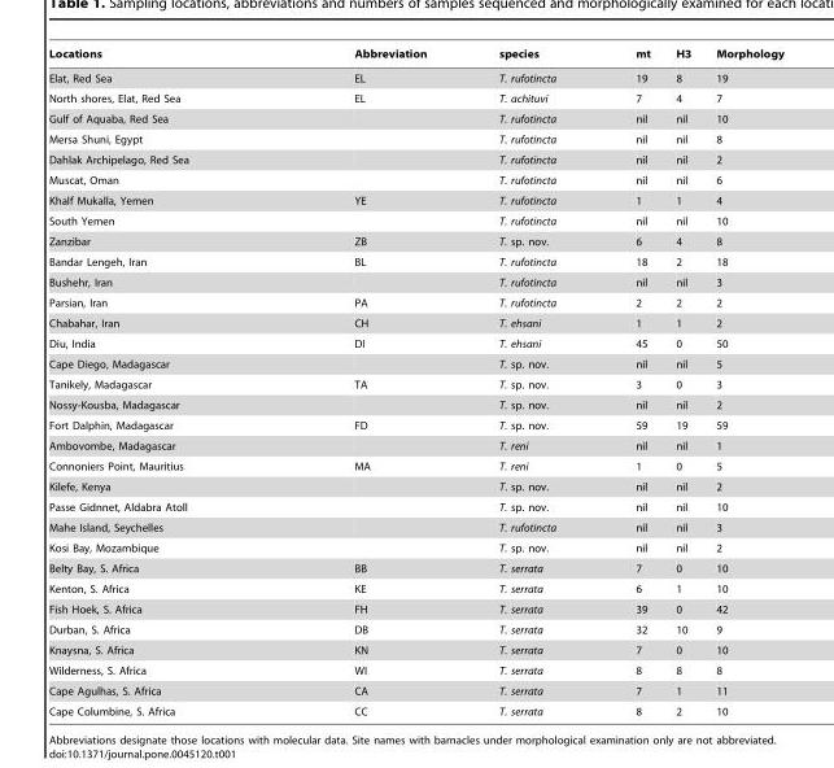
<table><thead><tr><td>Locations</td><td>Abbreviation</td><td>species</td><td>mt</td><td>H3</td><td>Morphology</td></tr></thead><tbody><tr><td>Elat, Red Sea</td><td>EL</td><td>T. rufotincta</td><td>19</td><td>8</td><td>19</td></tr><tr><td>North shores, Elat, Red Sea</td><td>EL</td><td>T. achituvi</td><td>7</td><td>4</td><td>7</td></tr><tr><td>Gulf of Aquaba, Red Sea</td><td></td><td>T. rufotincta</td><td>nil</td><td>nil</td><td>10</td></tr><tr><td>Mersa Shuni, Egypt</td><td></td><td>T. rufotincta</td><td>nil</td><td>nil</td><td>8</td></tr><tr><td>Dahlak Archipelago, Red Sea</td><td></td><td>T. rufotincta</td><td>nil</td><td>nil</td><td>2</td></tr><tr><td>Muscat, Oman</td><td></td><td>T. rufotincta</td><td>nil</td><td>nil</td><td>6</td></tr><tr><td>Khalf Mukalla, Yemen</td><td>YE</td><td>T. rufotincta</td><td>1</td><td>1</td><td>4</td></tr><tr><td>South Yemen</td><td></td><td>T. rufotincta</td><td>nil</td><td>nil</td><td>10</td></tr><tr><td>Zanzibar</td><td>ZB</td><td>T. sp. nov.</td><td>6</td><td>4</td><td>8</td></tr><tr><td>Bandar Lengeh, Iran</td><td>BL</td><td>T. rufotincta</td><td>18</td><td>2</td><td>18</td></tr><tr><td>Bushehr, Iran</td><td></td><td>T. rufotincta</td><td>nil</td><td>nil</td><td>3</td></tr><tr><td>Parsian, Iran</td><td>PA</td><td>T. rufotincta</td><td>2</td><td>2</td><td>2</td></tr><tr><td>Chabahar, Iran</td><td>CH</td><td>T. ehsani</td><td>1</td><td>1</td><td>2</td></tr><tr><td>Diu, India</td><td>DI</td><td>T. ehsani</td><td>45</td><td>0</td><td>50</td></tr><tr><td>Cape Diego, Madagascar</td><td></td><td>T. sp. nov.</td><td>nil</td><td>nil</td><td>5</td></tr><tr><td>Tanikely, Madagascar</td><td>TA</td><td>T. sp. nov.</td><td>3</td><td>0</td><td>3</td></tr><tr><td>Nossy-Kousba, Madagascar</td><td></td><td>T. sp. nov.</td><td>nil</td><td>nil</td><td>2</td></tr><tr><td>Fort Dalphin, Madagascar</td><td>FD</td><td>T. sp. nov.</td><td>59</td><td>19</td><td>59</td></tr><tr><td>Ambovombe, Madagascar</td><td></td><td>T. reni</td><td>nil</td><td>nil</td><td>1</td></tr><tr><td>Connoniers Point, Mauritius</td><td>MA</td><td>T. reni</td><td>1</td><td>0</td><td>5</td></tr><tr><td>Kilefe, Kenya</td><td></td><td>T. sp. nov.</td><td>nil</td><td>nil</td><td>2</td></tr><tr><td>Passe Gidnnet, Aldabra Atoll</td><td></td><td>T. sp. nov.</td><td>nil</td><td>nil</td><td>10</td></tr><tr><td>Mahe Island, Seychelles</td><td></td><td>T. rufotincta</td><td>nil</td><td>nil</td><td>3</td></tr><tr><td>Kosi Bay, Mozambique</td><td></td><td>T. sp. nov.</td><td>nil</td><td>nil</td><td>2</td></tr><tr><td>Belty Bay, S. Africa</td><td>BB</td><td>T. serrata</td><td>7</td><td>0</td><td>10</td></tr><tr><td>Kenton, S. Africa</td><td>KE</td><td>T. serrata</td><td>6</td><td>1</td><td>10</td></tr><tr><td>Fish Hoek, S. Africa</td><td>FH</td><td>T. serrata</td><td>39</td><td>0</td><td>42</td></tr><tr><td>Durban, S. Africa</td><td>DB</td><td>T. serrata</td><td>32</td><td>10</td><td>9</td></tr><tr><td>Knaysna, S. Africa</td><td>KN</td><td>T. serrata</td><td>7</td><td>0</td><td>10</td></tr><tr><td>Wilderness, S. Africa</td><td>WI</td><td>T. serrata</td><td>8</td><td>8</td><td>8</td></tr><tr><td>Cape Agulhas, S. Africa</td><td>CA</td><td>T. serrata</td><td>7</td><td>1</td><td>11</td></tr><tr><td>Cape Columbine, S. Africa</td><td>CC</td><td>T. serrata</td><td>8</td><td>2</td><td>10</td></tr></tbody></table>